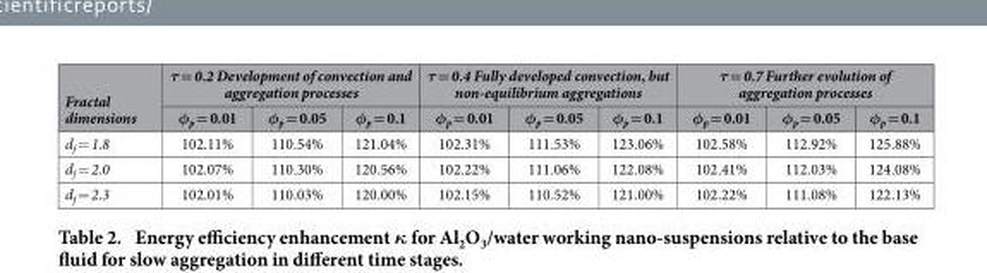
<table><thead><tr><td rowspan="2">Fractal dimensions</td><td colspan="3">τ = 0.2 Development of convection and aggregation processes</td><td colspan="3">τ = 0.4 Fully developed convection, but non-equilibrium aggregations</td><td colspan="3">τ = 0.7 Further evolution of aggregation processes</td></tr><tr><td>φ<sub>p</sub> = 0.01</td><td>φ<sub>p</sub> = 0.05</td><td>φ<sub>p</sub> = 0.1</td><td>φ<sub>p</sub> = 0.01</td><td>φ<sub>p</sub> = 0.05</td><td>φ<sub>p</sub> = 0.1</td><td>φ<sub>p</sub> = 0.01</td><td>φ<sub>p</sub> = 0.05</td><td>φ<sub>p</sub> = 0.1</td></tr></thead><tbody><tr><td>d<sub>f</sub> = 1.8</td><td>102.11%</td><td>110.54%</td><td>121.04%</td><td>102.31%</td><td>111.53%</td><td>123.06%</td><td>102.58%</td><td>112.92%</td><td>125.88%</td></tr><tr><td>d<sub>f</sub> = 2.0</td><td>102.07%</td><td>110.30%</td><td>120.56%</td><td>102.22%</td><td>111.06%</td><td>122.08%</td><td>102.41%</td><td>112.03%</td><td>124.08%</td></tr><tr><td>d<sub>f</sub> = 2.3</td><td>102.01%</td><td>110.03%</td><td>120.00%</td><td>102.15%</td><td>110.52%</td><td>121.00%</td><td>102.22%</td><td>111.08%</td><td>122.13%</td></tr></tbody></table>